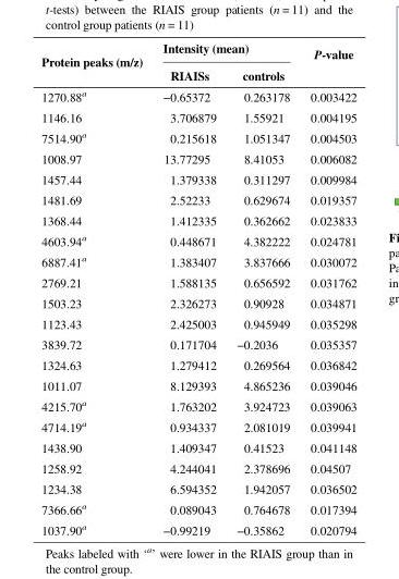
<table><thead><tr><td rowspan="2">Protein peaks (m/z)</td><td colspan="2">Intensity (mean)</td><td rowspan="2">P-value</td></tr><tr><td>RIAISs</td><td>controls</td></tr></thead><tbody><tr><td>1270.88<sup>a</sup></td><td>−0.65372</td><td>0.263178</td><td>0.003422</td></tr><tr><td>1146.16</td><td>3.706879</td><td>1.55921</td><td>0.004195</td></tr><tr><td>7514.90<sup>a</sup></td><td>0.215618</td><td>1.051347</td><td>0.004503</td></tr><tr><td>1008.97</td><td>13.77295</td><td>8.41053</td><td>0.006082</td></tr><tr><td>1457.44</td><td>1.379338</td><td>0.311297</td><td>0.009984</td></tr><tr><td>1481.69</td><td>2.52233</td><td>0.629674</td><td>0.019357</td></tr><tr><td>1368.44</td><td>1.412335</td><td>0.362662</td><td>0.023833</td></tr><tr><td>4603.94<sup>a</sup></td><td>0.448671</td><td>4.382222</td><td>0.024781</td></tr><tr><td>6887.41<sup>a</sup></td><td>1.383407</td><td>3.837666</td><td>0.030072</td></tr><tr><td>2769.21</td><td>1.588135</td><td>0.656592</td><td>0.031762</td></tr><tr><td>1503.23</td><td>2.326273</td><td>0.90928</td><td>0.034871</td></tr><tr><td>1123.43</td><td>2.425003</td><td>0.945949</td><td>0.035298</td></tr><tr><td>3839.72</td><td>0.171704</td><td>−0.2036</td><td>0.035357</td></tr><tr><td>1324.63</td><td>1.279412</td><td>0.269564</td><td>0.036842</td></tr><tr><td>1011.07</td><td>8.129393</td><td>4.865236</td><td>0.039046</td></tr><tr><td>4215.70<sup>a</sup></td><td>1.763202</td><td>3.924723</td><td>0.039063</td></tr><tr><td>4714.19<sup>a</sup></td><td>0.934337</td><td>2.081019</td><td>0.039941</td></tr><tr><td>1438.90</td><td>1.409347</td><td>0.41523</td><td>0.041148</td></tr><tr><td>1258.92</td><td>4.244041</td><td>2.378696</td><td>0.04507</td></tr><tr><td>1234.38</td><td>6.594352</td><td>1.942057</td><td>0.036502</td></tr><tr><td>7366.66<sup>a</sup></td><td>0.089043</td><td>0.764678</td><td>0.017394</td></tr><tr><td>1037.90<sup>a</sup></td><td>−0.99219</td><td>−0.35862</td><td>0.020794</td></tr></tbody></table>